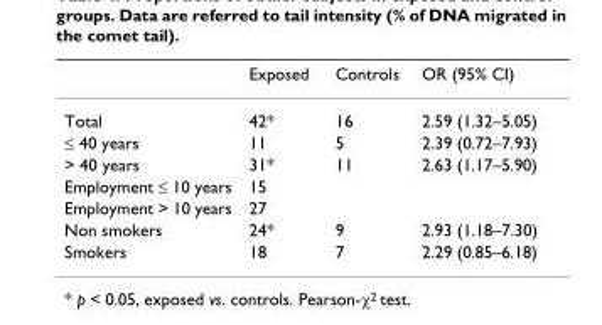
<table><thead><tr><td></td><td>Exposed</td><td>Controls</td><td>OR (95% CI)</td></tr></thead><tbody><tr><td>Total</td><td>42*</td><td>16</td><td>2.59 (1.32–5.05)</td></tr><tr><td>≤ 40 years</td><td>11</td><td>5</td><td>2.39 (0.72–7.93)</td></tr><tr><td>&gt; 40 years</td><td>31*</td><td>11</td><td>2.63 (1.17–5.90)</td></tr><tr><td>Employment ≤ 10 years</td><td>15</td><td></td><td></td></tr><tr><td>Employment &gt; 10 years</td><td>27</td><td></td><td></td></tr><tr><td>Non smokers</td><td>24*</td><td>9</td><td>2.93 (1.18–7.30)</td></tr><tr><td>Smokers</td><td>18</td><td>7</td><td>2.29 (0.85–6.18)</td></tr></tbody></table>